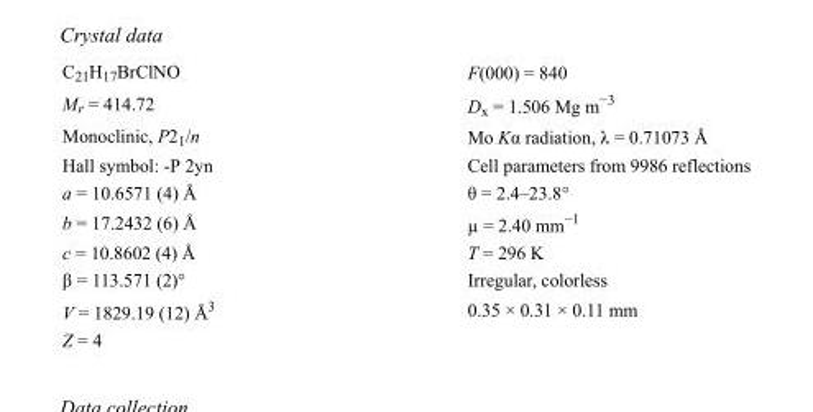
<table><tbody><tr><td>C<sub>21</sub>H<sub>17</sub>BrClNO</td><td>F(000) = 840</td></tr><tr><td>M<sub>r</sub> = 414.72</td><td>D<sub>x</sub> = 1.506 Mg m<sup>−3</sup></td></tr><tr><td>Monoclinic, P2<sub>1</sub>/n</td><td>Mo Kα radiation, λ = 0.71073 Å</td></tr><tr><td>Hall symbol: -P 2yn</td><td>Cell parameters from 9986 reflections</td></tr><tr><td>a = 10.6571 (4) Å</td><td>θ = 2.4–23.8°</td></tr><tr><td>b = 17.2432 (6) Å</td><td>µ = 2.40 mm<sup>−1</sup></td></tr><tr><td>c = 10.8602 (4) Å</td><td>T = 296 K</td></tr><tr><td>β = 113.571 (2)°</td><td>Irregular, colorless</td></tr><tr><td>V = 1829.19 (12) Å<sup>3</sup></td><td>0.35 × 0.31 × 0.11 mm</td></tr><tr><td>Z = 4</td><td></td></tr></tbody></table>